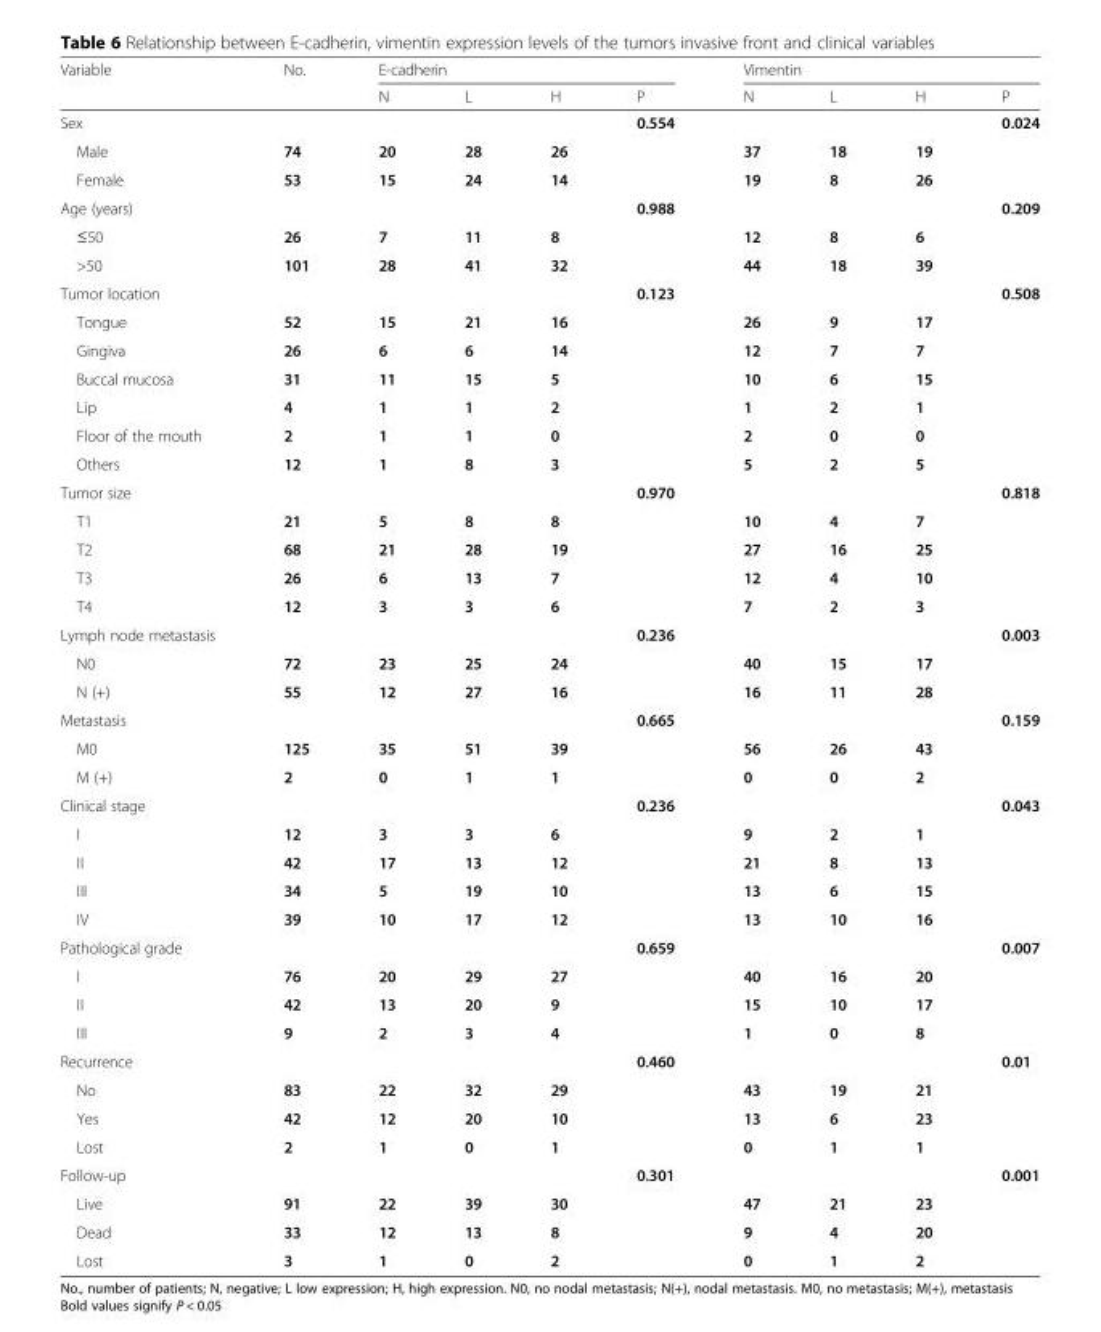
<table><thead><tr><td rowspan="2">Variable</td><td rowspan="2">No.</td><td colspan="4">E-cadherin</td><td colspan="4">Vimentin</td></tr><tr><td>N</td><td>L</td><td>H</td><td>P</td><td>N</td><td>L</td><td>H</td><td>P</td></tr></thead><tbody><tr><td>Sex</td><td></td><td></td><td></td><td></td><td>0.554</td><td></td><td></td><td></td><td>0.024</td></tr><tr><td>Male</td><td>74</td><td>20</td><td>28</td><td>26</td><td></td><td>37</td><td>18</td><td>19</td><td></td></tr><tr><td>Female</td><td>53</td><td>15</td><td>24</td><td>14</td><td></td><td>19</td><td>8</td><td>26</td><td></td></tr><tr><td>Age (years)</td><td></td><td></td><td></td><td></td><td>0.988</td><td></td><td></td><td></td><td>0.209</td></tr><tr><td>≤50</td><td>26</td><td>7</td><td>11</td><td>8</td><td></td><td>12</td><td>8</td><td>6</td><td></td></tr><tr><td>&gt;50</td><td>101</td><td>28</td><td>41</td><td>32</td><td></td><td>44</td><td>18</td><td>39</td><td></td></tr><tr><td>Tumor location</td><td></td><td></td><td></td><td></td><td>0.123</td><td></td><td></td><td></td><td>0.508</td></tr><tr><td>Tongue</td><td>52</td><td>15</td><td>21</td><td>16</td><td></td><td>26</td><td>9</td><td>17</td><td></td></tr><tr><td>Gingiva</td><td>26</td><td>6</td><td>6</td><td>14</td><td></td><td>12</td><td>7</td><td>7</td><td></td></tr><tr><td>Buccal mucosa</td><td>31</td><td>11</td><td>15</td><td>5</td><td></td><td>10</td><td>6</td><td>15</td><td></td></tr><tr><td>Lip</td><td>4</td><td>1</td><td>1</td><td>2</td><td></td><td>1</td><td>2</td><td>1</td><td></td></tr><tr><td>Floor of the mouth</td><td>2</td><td>1</td><td>1</td><td>0</td><td></td><td>2</td><td>0</td><td>0</td><td></td></tr><tr><td>Others</td><td>12</td><td>1</td><td>8</td><td>3</td><td></td><td>5</td><td>2</td><td>5</td><td></td></tr><tr><td>Tumor size</td><td></td><td></td><td></td><td></td><td>0.970</td><td></td><td></td><td></td><td>0.818</td></tr><tr><td>T1</td><td>21</td><td>5</td><td>8</td><td>8</td><td></td><td>10</td><td>4</td><td>7</td><td></td></tr><tr><td>T2</td><td>68</td><td>21</td><td>28</td><td>19</td><td></td><td>27</td><td>16</td><td>25</td><td></td></tr><tr><td>T3</td><td>26</td><td>6</td><td>13</td><td>7</td><td></td><td>12</td><td>4</td><td>10</td><td></td></tr><tr><td>T4</td><td>12</td><td>3</td><td>3</td><td>6</td><td></td><td>7</td><td>2</td><td>3</td><td></td></tr><tr><td>Lymph node metastasis</td><td></td><td></td><td></td><td></td><td>0.236</td><td></td><td></td><td></td><td>0.003</td></tr><tr><td>N0</td><td>72</td><td>23</td><td>25</td><td>24</td><td></td><td>40</td><td>15</td><td>17</td><td></td></tr><tr><td>N (+)</td><td>55</td><td>12</td><td>27</td><td>16</td><td></td><td>16</td><td>11</td><td>28</td><td></td></tr><tr><td>Metastasis</td><td></td><td></td><td></td><td></td><td>0.665</td><td></td><td></td><td></td><td>0.159</td></tr><tr><td>M0</td><td>125</td><td>35</td><td>51</td><td>39</td><td></td><td>56</td><td>26</td><td>43</td><td></td></tr><tr><td>M (+)</td><td>2</td><td>0</td><td>1</td><td>1</td><td></td><td>0</td><td>0</td><td>2</td><td></td></tr><tr><td>Clinical stage</td><td></td><td></td><td></td><td></td><td>0.236</td><td></td><td></td><td></td><td>0.043</td></tr><tr><td>I</td><td>12</td><td>3</td><td>3</td><td>6</td><td></td><td>9</td><td>2</td><td>1</td><td></td></tr><tr><td>II</td><td>42</td><td>17</td><td>13</td><td>12</td><td></td><td>21</td><td>8</td><td>13</td><td></td></tr><tr><td>III</td><td>34</td><td>5</td><td>19</td><td>10</td><td></td><td>13</td><td>6</td><td>15</td><td></td></tr><tr><td>IV</td><td>39</td><td>10</td><td>17</td><td>12</td><td></td><td>13</td><td>10</td><td>16</td><td></td></tr><tr><td>Pathological grade</td><td></td><td></td><td></td><td></td><td>0.659</td><td></td><td></td><td></td><td>0.007</td></tr><tr><td>I</td><td>76</td><td>20</td><td>29</td><td>27</td><td></td><td>40</td><td>16</td><td>20</td><td></td></tr><tr><td>II</td><td>42</td><td>13</td><td>20</td><td>9</td><td></td><td>15</td><td>10</td><td>17</td><td></td></tr><tr><td>III</td><td>9</td><td>2</td><td>3</td><td>4</td><td></td><td>1</td><td>0</td><td>8</td><td></td></tr><tr><td>Recurrence</td><td></td><td></td><td></td><td></td><td>0.460</td><td></td><td></td><td></td><td>0.01</td></tr><tr><td>No</td><td>83</td><td>22</td><td>32</td><td>29</td><td></td><td>43</td><td>19</td><td>21</td><td></td></tr><tr><td>Yes</td><td>42</td><td>12</td><td>20</td><td>10</td><td></td><td>13</td><td>6</td><td>23</td><td></td></tr><tr><td>Lost</td><td>2</td><td>1</td><td>0</td><td>1</td><td></td><td>0</td><td>1</td><td>1</td><td></td></tr><tr><td>Follow-up</td><td></td><td></td><td></td><td></td><td>0.301</td><td></td><td></td><td></td><td>0.001</td></tr><tr><td>Live</td><td>91</td><td>22</td><td>39</td><td>30</td><td></td><td>47</td><td>21</td><td>23</td><td></td></tr><tr><td>Dead</td><td>33</td><td>12</td><td>13</td><td>8</td><td></td><td>9</td><td>4</td><td>20</td><td></td></tr><tr><td>Lost</td><td>3</td><td>1</td><td>0</td><td>2</td><td></td><td>0</td><td>1</td><td>2</td><td></td></tr></tbody></table>